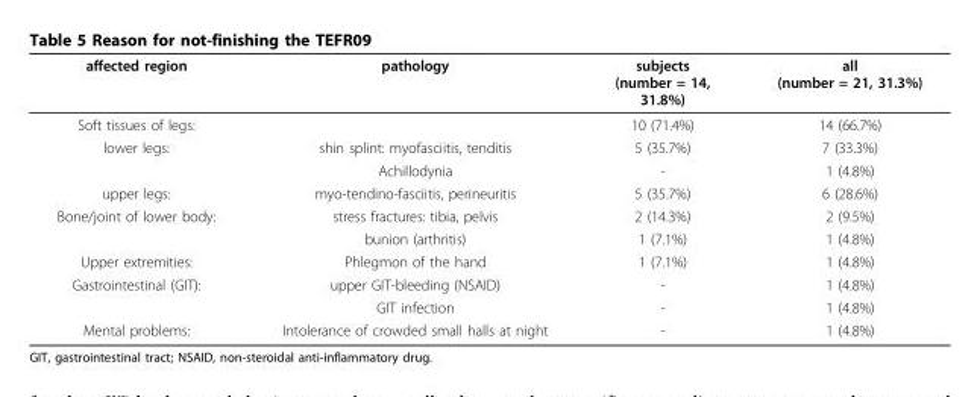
<table><thead><tr><td>affected region</td><td>pathology</td><td>subjects (number = 14, 31.8%)</td><td>all (number = 21, 31.3%)</td></tr></thead><tbody><tr><td>Soft tissues of legs:</td><td></td><td>10 (71.4%)</td><td>14 (66.7%)</td></tr><tr><td rowspan="2">lower legs:</td><td>shin splint: myofasciitis, tenditis</td><td>5 (35.7%)</td><td>7 (33.3%)</td></tr><tr><td>Achillodynia</td><td>-</td><td>1 (4.8%)</td></tr><tr><td>upper legs:</td><td>myo-tendino-fasciitis, perineuritis</td><td>5 (35.7%)</td><td>6 (28.6%)</td></tr><tr><td rowspan="2">Bone/joint of lower body:</td><td>stress fractures: tibia, pelvis</td><td>2 (14.3%)</td><td>2 (9.5%)</td></tr><tr><td>bunion (arthritis)</td><td>1 (7.1%)</td><td>1 (4.8%)</td></tr><tr><td>Upper extremities:</td><td>Phlegmon of the hand</td><td>1 (7.1%)</td><td>1 (4.8%)</td></tr><tr><td rowspan="2">Gastrointestinal (GIT):</td><td>upper GIT-bleeding (NSAID)</td><td>-</td><td>1 (4.8%)</td></tr><tr><td>GIT infection</td><td>-</td><td>1 (4.8%)</td></tr><tr><td>Mental problems:</td><td>Intolerance of crowded small halls at night</td><td>-</td><td>1 (4.8%)</td></tr></tbody></table>